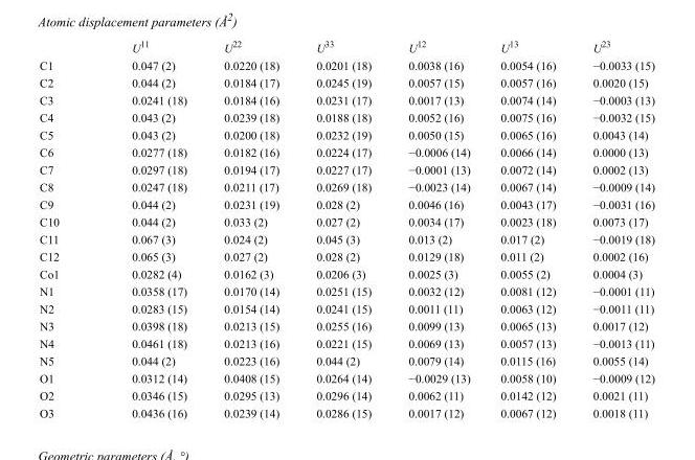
<table><thead><tr><td></td><td>U<sup>11</sup></td><td>U<sup>22</sup></td><td>U<sup>33</sup></td><td>U<sup>12</sup></td><td>U<sup>13</sup></td><td>U<sup>23</sup></td></tr></thead><tbody><tr><td>C1</td><td>0.047 (2)</td><td>0.0220 (18)</td><td>0.0201 (18)</td><td>0.0038 (16)</td><td>0.0054 (16)</td><td>−0.0033 (15)</td></tr><tr><td>C2</td><td>0.044 (2)</td><td>0.0184 (17)</td><td>0.0245 (19)</td><td>0.0057 (15)</td><td>0.0057 (16)</td><td>0.0020 (15)</td></tr><tr><td>C3</td><td>0.0241 (18)</td><td>0.0184 (16)</td><td>0.0231 (17)</td><td>0.0017 (13)</td><td>0.0074 (14)</td><td>−0.0003 (13)</td></tr><tr><td>C4</td><td>0.043 (2)</td><td>0.0239 (18)</td><td>0.0188 (18)</td><td>0.0052 (16)</td><td>0.0075 (16)</td><td>−0.0032 (15)</td></tr><tr><td>C5</td><td>0.043 (2)</td><td>0.0200 (18)</td><td>0.0232 (19)</td><td>0.0050 (15)</td><td>0.0065 (16)</td><td>0.0043 (14)</td></tr><tr><td>C6</td><td>0.0277 (18)</td><td>0.0182 (16)</td><td>0.0224 (17)</td><td>−0.0006 (14)</td><td>0.0066 (14)</td><td>0.0000 (13)</td></tr><tr><td>C7</td><td>0.0297 (18)</td><td>0.0194 (17)</td><td>0.0227 (17)</td><td>−0.0001 (13)</td><td>0.0072 (14)</td><td>0.0002 (13)</td></tr><tr><td>C8</td><td>0.0247 (18)</td><td>0.0211 (17)</td><td>0.0269 (18)</td><td>−0.0023 (14)</td><td>0.0067 (14)</td><td>−0.0009 (14)</td></tr><tr><td>C9</td><td>0.044 (2)</td><td>0.0231 (19)</td><td>0.028 (2)</td><td>0.0046 (16)</td><td>0.0043 (17)</td><td>−0.0031 (16)</td></tr><tr><td>C10</td><td>0.044 (2)</td><td>0.033 (2)</td><td>0.027 (2)</td><td>0.0034 (17)</td><td>0.0023 (18)</td><td>0.0073 (17)</td></tr><tr><td>C11</td><td>0.067 (3)</td><td>0.024 (2)</td><td>0.045 (3)</td><td>0.013 (2)</td><td>0.017 (2)</td><td>−0.0019 (18)</td></tr><tr><td>C12</td><td>0.065 (3)</td><td>0.027 (2)</td><td>0.028 (2)</td><td>0.0129 (18)</td><td>0.011 (2)</td><td>0.0002 (16)</td></tr><tr><td>Co1</td><td>0.0282 (4)</td><td>0.0162 (3)</td><td>0.0206 (3)</td><td>0.0025 (3)</td><td>0.0055 (2)</td><td>0.0004 (3)</td></tr><tr><td>N1</td><td>0.0358 (17)</td><td>0.0170 (14)</td><td>0.0251 (15)</td><td>0.0032 (12)</td><td>0.0081 (12)</td><td>−0.0001 (11)</td></tr><tr><td>N2</td><td>0.0283 (15)</td><td>0.0154 (14)</td><td>0.0241 (15)</td><td>0.0011 (11)</td><td>0.0063 (12)</td><td>−0.0011 (11)</td></tr><tr><td>N3</td><td>0.0398 (18)</td><td>0.0213 (15)</td><td>0.0255 (16)</td><td>0.0099 (13)</td><td>0.0065 (13)</td><td>0.0017 (12)</td></tr><tr><td>N4</td><td>0.0461 (18)</td><td>0.0213 (16)</td><td>0.0221 (15)</td><td>0.0069 (13)</td><td>0.0057 (13)</td><td>−0.0013 (11)</td></tr><tr><td>N5</td><td>0.044 (2)</td><td>0.0223 (16)</td><td>0.044 (2)</td><td>0.0079 (14)</td><td>0.0115 (16)</td><td>0.0055 (14)</td></tr><tr><td>O1</td><td>0.0312 (14)</td><td>0.0408 (15)</td><td>0.0264 (14)</td><td>−0.0029 (13)</td><td>0.0058 (10)</td><td>−0.0009 (12)</td></tr><tr><td>O2</td><td>0.0346 (15)</td><td>0.0295 (13)</td><td>0.0296 (14)</td><td>0.0062 (11)</td><td>0.0142 (12)</td><td>0.0021 (11)</td></tr><tr><td>O3</td><td>0.0436 (16)</td><td>0.0239 (14)</td><td>0.0286 (15)</td><td>0.0017 (12)</td><td>0.0067 (12)</td><td>0.0018 (11)</td></tr></tbody></table>